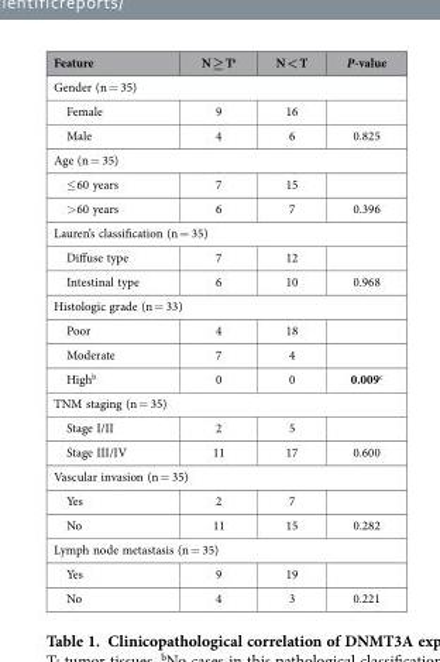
<table><thead><tr><td>Feature</td><td>N ≥ T<sup>a</sup></td><td>N &lt; T</td><td>P-value</td></tr></thead><tbody><tr><td colspan="4">Gender (n = 35)</td></tr><tr><td>Female</td><td>9</td><td>16</td><td></td></tr><tr><td>Male</td><td>4</td><td>6</td><td>0.825</td></tr><tr><td colspan="4">Age (n = 35)</td></tr><tr><td>≤ 60 years</td><td>7</td><td>15</td><td></td></tr><tr><td>&gt; 60 years</td><td>6</td><td>7</td><td>0.396</td></tr><tr><td colspan="4">Lauren’s classification (n = 35)</td></tr><tr><td>Diffuse type</td><td>7</td><td>12</td><td></td></tr><tr><td>Intestinal type</td><td>6</td><td>10</td><td>0.968</td></tr><tr><td colspan="4">Histologic grade (n = 33)</td></tr><tr><td>Poor</td><td>4</td><td>18</td><td></td></tr><tr><td>Moderate</td><td>7</td><td>4</td><td></td></tr><tr><td>High<sup>b</sup></td><td>0</td><td>0</td><td>0.009<sup>c</sup></td></tr><tr><td colspan="4">TNM staging (n = 35)</td></tr><tr><td>Stage I/II</td><td>2</td><td>5</td><td></td></tr><tr><td>Stage III/IV</td><td>11</td><td>17</td><td>0.600</td></tr><tr><td colspan="4">Vascular invasion (n = 35)</td></tr><tr><td>Yes</td><td>2</td><td>7</td><td></td></tr><tr><td>No</td><td>11</td><td>15</td><td>0.282</td></tr><tr><td colspan="4">Lymph node metastasis (n = 35)</td></tr><tr><td>Yes</td><td>9</td><td>19</td><td></td></tr><tr><td>No</td><td>4</td><td>3</td><td>0.221</td></tr></tbody></table>